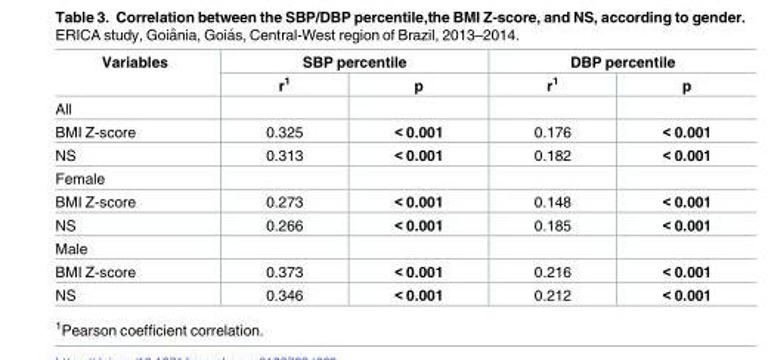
<table><thead><tr><td rowspan="2">Variables</td><td colspan="2">SBP percentile</td><td colspan="2">DBP percentile</td></tr><tr><td>r<sup>1</sup></td><td>p</td><td>r<sup>1</sup></td><td>p</td></tr></thead><tbody><tr><td colspan="5">All</td></tr><tr><td>BMI Z-score</td><td>0.325</td><td>&lt; 0.001</td><td>0.176</td><td>&lt; 0.001</td></tr><tr><td>NS</td><td>0.313</td><td>&lt; 0.001</td><td>0.182</td><td>&lt; 0.001</td></tr><tr><td colspan="5">Female</td></tr><tr><td>BMI Z-score</td><td>0.273</td><td>&lt; 0.001</td><td>0.148</td><td>&lt; 0.001</td></tr><tr><td>NS</td><td>0.266</td><td>&lt; 0.001</td><td>0.185</td><td>&lt; 0.001</td></tr><tr><td colspan="5">Male</td></tr><tr><td>BMI Z-score</td><td>0.373</td><td>&lt; 0.001</td><td>0.216</td><td>&lt; 0.001</td></tr><tr><td>NS</td><td>0.346</td><td>&lt; 0.001</td><td>0.212</td><td>&lt; 0.001</td></tr></tbody></table>